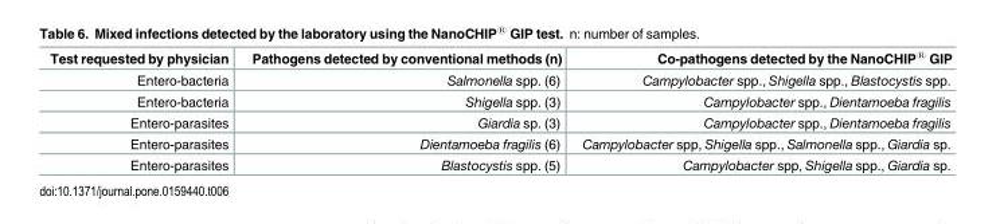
<table><thead><tr><td>Test requested by physician</td><td>Pathogens detected by conventional methods (n)</td><td>Co-pathogens detected by the NanoCHIP<sup>®</sup> GIP</td></tr></thead><tbody><tr><td>Entero-bacteria</td><td>Salmonella spp. (6)</td><td>Campylobacter spp., Shigella spp., Blastocystis spp.</td></tr><tr><td>Entero-bacteria</td><td>Shigella spp. (3)</td><td>Campylobacter spp., Dientamoeba fragilis</td></tr><tr><td>Entero-parasites</td><td>Giardia sp. (3)</td><td>Campylobacter spp., Dientamoeba fragilis</td></tr><tr><td>Entero-parasites</td><td>Dientamoeba fragilis (6)</td><td>Campylobacter spp, Shigella spp., Salmonella spp., Giardia sp.</td></tr><tr><td>Entero-parasites</td><td>Blastocystis spp. (5)</td><td>Campylobacter spp, Shigella spp., Giardia sp.</td></tr></tbody></table>